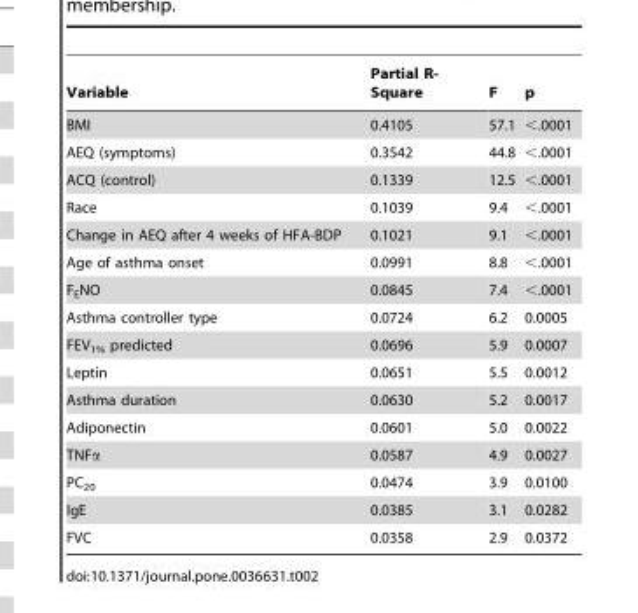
<table><thead><tr><td>Variable</td><td>Partial R- Square</td><td>F</td><td>p</td></tr></thead><tbody><tr><td>BMI</td><td>0.4105</td><td>57.1</td><td>&lt;.0001</td></tr><tr><td>AEQ (symptoms)</td><td>0.3542</td><td>44.8</td><td>&lt;.0001</td></tr><tr><td>ACQ (control)</td><td>0.1339</td><td>12.5</td><td>&lt;.0001</td></tr><tr><td>Race</td><td>0.1039</td><td>9.4</td><td>&lt;.0001</td></tr><tr><td>Change in AEQ after 4 weeks of HFA-BDP</td><td>0.1021</td><td>9.1</td><td>&lt;.0001</td></tr><tr><td>Age of asthma onset</td><td>0.0991</td><td>8.8</td><td>&lt;.0001</td></tr><tr><td>F<sub>E</sub>NO</td><td>0.0845</td><td>7.4</td><td>&lt;.0001</td></tr><tr><td>Asthma controller type</td><td>0.0724</td><td>6.2</td><td>0.0005</td></tr><tr><td>FEV<sub>1%</sub> predicted</td><td>0.0696</td><td>5.9</td><td>0.0007</td></tr><tr><td>Leptin</td><td>0.0651</td><td>5.5</td><td>0.0012</td></tr><tr><td>Asthma duration</td><td>0.0630</td><td>5.2</td><td>0.0017</td></tr><tr><td>Adiponectin</td><td>0.0601</td><td>5.0</td><td>0.0022</td></tr><tr><td>TNFα</td><td>0.0587</td><td>4.9</td><td>0.0027</td></tr><tr><td>PC<sub>20</sub></td><td>0.0474</td><td>3.9</td><td>0.0100</td></tr><tr><td>IgE</td><td>0.0385</td><td>3.1</td><td>0.0282</td></tr><tr><td>FVC</td><td>0.0358</td><td>2.9</td><td>0.0372</td></tr></tbody></table>